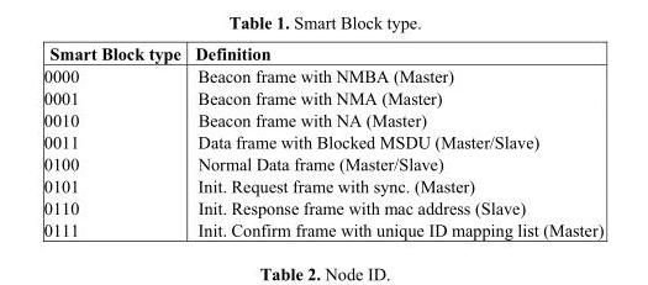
<table><thead><tr><td>Smart Block type</td><td>Definition</td></tr></thead><tbody><tr><td>0000</td><td>Beacon frame with NMBA (Master)</td></tr><tr><td>0001</td><td>Beacon frame with NMA (Master)</td></tr><tr><td>0010</td><td>Beacon frame with NA (Master)</td></tr><tr><td>0011</td><td>Data frame with Blocked MSDU (Master/Slave)</td></tr><tr><td>0100</td><td>Normal Data frame (Master/Slave)</td></tr><tr><td>0101</td><td>Init. Request frame with sync. (Master)</td></tr><tr><td>0110</td><td>Init. Response frame with mac address (Slave)</td></tr><tr><td>0111</td><td>Init. Confirm frame with unique ID mapping list (Master)</td></tr></tbody></table>